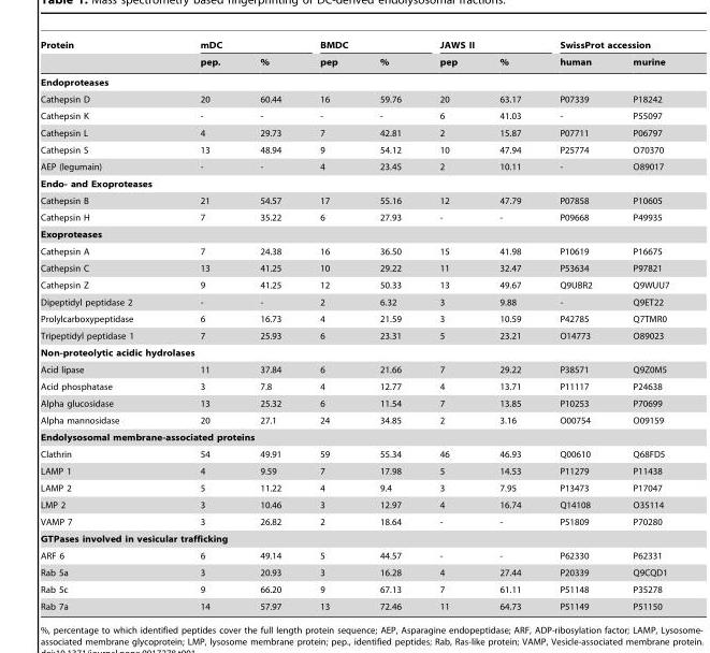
<table><thead><tr><td rowspan="2">Protein</td><td colspan="2">mDC</td><td colspan="2">BMDC</td><td colspan="2">JAWS II</td><td colspan="2">SwissProt accession</td></tr><tr><td>pep.</td><td>%</td><td>pep</td><td>%</td><td>pep</td><td>%</td><td>human</td><td>murine</td></tr></thead><tbody><tr><td colspan="9">Endoproteases</td></tr><tr><td>Cathepsin D</td><td>20</td><td>60.44</td><td>16</td><td>59.76</td><td>20</td><td>63.17</td><td>P07339</td><td>P18242</td></tr><tr><td>Cathepsin K</td><td>-</td><td>-</td><td>-</td><td>-</td><td>6</td><td>41.03</td><td>-</td><td>P55097</td></tr><tr><td>Cathepsin L</td><td>4</td><td>29.73</td><td>7</td><td>42.81</td><td>2</td><td>15.87</td><td>P07711</td><td>P06797</td></tr><tr><td>Cathepsin S</td><td>13</td><td>48.94</td><td>9</td><td>54.12</td><td>10</td><td>47.94</td><td>P25774</td><td>O70370</td></tr><tr><td>AEP (legumain)</td><td>-</td><td>-</td><td>4</td><td>23.45</td><td>2</td><td>10.11</td><td>-</td><td>O89017</td></tr><tr><td colspan="9">Endo- and Exoproteases</td></tr><tr><td>Cathepsin B</td><td>21</td><td>54.57</td><td>17</td><td>55.16</td><td>12</td><td>47.79</td><td>P07858</td><td>P10605</td></tr><tr><td>Cathepsin H</td><td>7</td><td>35.22</td><td>6</td><td>27.93</td><td>-</td><td>-</td><td>P09668</td><td>P49935</td></tr><tr><td colspan="9">Exoproteases</td></tr><tr><td>Cathepsin A</td><td>7</td><td>24.38</td><td>16</td><td>36.50</td><td>15</td><td>41.98</td><td>P10619</td><td>P16675</td></tr><tr><td>Cathepsin C</td><td>13</td><td>41.25</td><td>10</td><td>29.22</td><td>11</td><td>32.47</td><td>P53634</td><td>P97821</td></tr><tr><td>Cathepsin Z</td><td>9</td><td>41.25</td><td>12</td><td>50.33</td><td>13</td><td>49.67</td><td>Q9UBR2</td><td>Q9WUU7</td></tr><tr><td>Dipeptidyl peptidase 2</td><td>-</td><td>-</td><td>2</td><td>6.32</td><td>3</td><td>9.88</td><td>-</td><td>Q9ET22</td></tr><tr><td>Prolylcarboxypeptidase</td><td>6</td><td>16.73</td><td>4</td><td>21.59</td><td>3</td><td>10.59</td><td>P42785</td><td>Q7TMR0</td></tr><tr><td>Tripeptidyl peptidase 1</td><td>7</td><td>25.93</td><td>6</td><td>23.31</td><td>5</td><td>23.21</td><td>O14773</td><td>O89023</td></tr><tr><td colspan="9">Non-proteolytic acidic hydrolases</td></tr><tr><td>Acid lipase</td><td>11</td><td>37.84</td><td>6</td><td>21.66</td><td>7</td><td>29.22</td><td>P38571</td><td>Q9Z0M5</td></tr><tr><td>Acid phosphatase</td><td>3</td><td>7.8</td><td>4</td><td>12.77</td><td>4</td><td>13.71</td><td>P11117</td><td>P24638</td></tr><tr><td>Alpha glucosidase</td><td>13</td><td>25.32</td><td>6</td><td>11.54</td><td>7</td><td>13.85</td><td>P10253</td><td>P70699</td></tr><tr><td>Alpha mannosidase</td><td>20</td><td>27.1</td><td>24</td><td>34.85</td><td>2</td><td>3.16</td><td>O00754</td><td>O09159</td></tr><tr><td colspan="9">Endolysosomal membrane-associated proteins</td></tr><tr><td>Clathrin</td><td>54</td><td>49.91</td><td>59</td><td>55.34</td><td>46</td><td>46.93</td><td>Q00610</td><td>Q68FD5</td></tr><tr><td>LAMP 1</td><td>4</td><td>9.59</td><td>7</td><td>17.98</td><td>5</td><td>14.53</td><td>P11279</td><td>P11438</td></tr><tr><td>LAMP 2</td><td>5</td><td>11.22</td><td>4</td><td>9.4</td><td>3</td><td>7.95</td><td>P13473</td><td>P17047</td></tr><tr><td>LMP 2</td><td>3</td><td>10.46</td><td>3</td><td>12.97</td><td>4</td><td>16.74</td><td>Q14108</td><td>O35114</td></tr><tr><td>VAMP 7</td><td>3</td><td>26.82</td><td>2</td><td>18.64</td><td>-</td><td>-</td><td>P51809</td><td>P70280</td></tr><tr><td colspan="9">GTPases involved in vesicular trafficking</td></tr><tr><td>ARF 6</td><td>6</td><td>49.14</td><td>5</td><td>44.57</td><td>-</td><td>-</td><td>P62330</td><td>P62331</td></tr><tr><td>Rab 5a</td><td>3</td><td>20.93</td><td>3</td><td>16.28</td><td>4</td><td>27.44</td><td>P20339</td><td>Q9CQD1</td></tr><tr><td>Rab 5c</td><td>9</td><td>66.20</td><td>9</td><td>67.13</td><td>7</td><td>61.11</td><td>P51148</td><td>P35278</td></tr><tr><td>Rab 7a</td><td>14</td><td>57.97</td><td>13</td><td>72.46</td><td>11</td><td>64.73</td><td>P51149</td><td>P51150</td></tr></tbody></table>